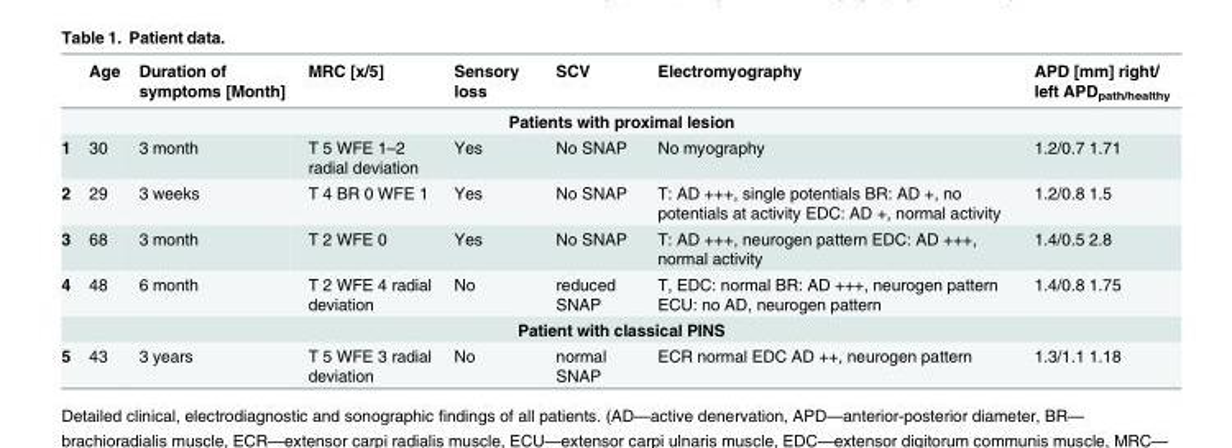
<table><thead><tr><td></td><td>Age</td><td>Duration of symptoms [Month]</td><td>MRC [x/5]</td><td>Sensory loss</td><td>SCV</td><td>Electromyography</td><td>APD [mm] right/ left APD<sub>path/healthy</sub></td></tr></thead><tbody><tr><td colspan="8">Patients with proximal lesion</td></tr><tr><td>1</td><td>30</td><td>3 month</td><td>T 5 WFE 1–2 radial deviation</td><td>Yes</td><td>No SNAP</td><td>No myography</td><td>1.2/0.7 1.71</td></tr><tr><td>2</td><td>29</td><td>3 weeks</td><td>T 4 BR 0 WFE 1</td><td>Yes</td><td>No SNAP</td><td>T: AD +++, single potentials BR: AD +, no potentials at activity EDC: AD +, normal activity</td><td>1.2/0.8 1.5</td></tr><tr><td>3</td><td>68</td><td>3 month</td><td>T 2 WFE 0</td><td>Yes</td><td>No SNAP</td><td>T: AD +++, neurogen pattern EDC: AD +++, normal activity</td><td>1.4/0.5 2.8</td></tr><tr><td>4</td><td>48</td><td>6 month</td><td>T 2 WFE 4 radial deviation</td><td>No</td><td>reduced SNAP</td><td>T, EDC: normal BR: AD +++, neurogen pattern ECU: no AD, neurogen pattern</td><td>1.4/0.8 1.75</td></tr><tr><td colspan="8">Patient with classical PINS</td></tr><tr><td>5</td><td>43</td><td>3 years</td><td>T 5 WFE 3 radial deviation</td><td>No</td><td>normal SNAP</td><td>ECR normal EDC AD ++, neurogen pattern</td><td>1.3/1.1 1.18</td></tr></tbody></table>